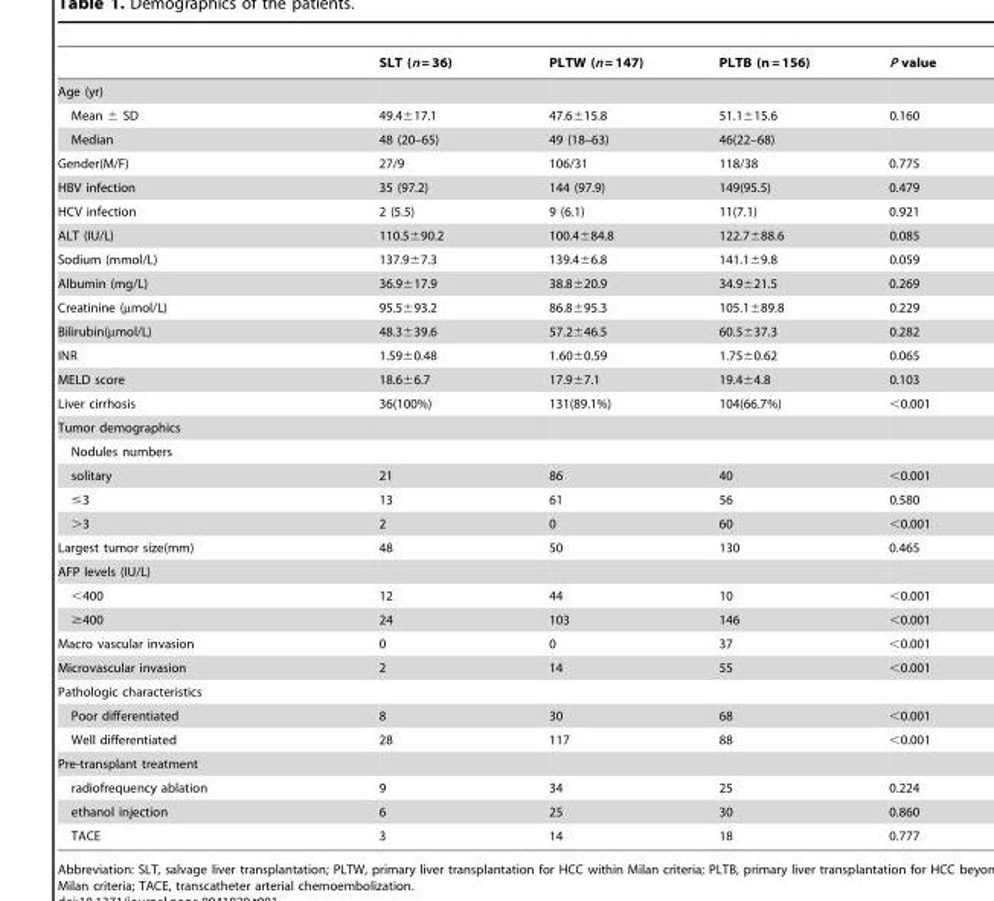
<table><thead><tr><td></td><td>SLT (n = 36)</td><td>PLTW (n = 147)</td><td>PLTB (n = 156)</td><td>P value</td></tr></thead><tbody><tr><td colspan="5">Age (yr)</td></tr><tr><td>Mean ± SD</td><td>49.4±17.1</td><td>47.6±15.8</td><td>51.1±15.6</td><td>0.160</td></tr><tr><td>Median</td><td>48 (20–65)</td><td>49 (18–63)</td><td>46(22–68)</td><td></td></tr><tr><td>Gender(M/F)</td><td>27/9</td><td>106/31</td><td>118/38</td><td>0.775</td></tr><tr><td>HBV infection</td><td>35 (97.2)</td><td>144 (97.9)</td><td>149(95.5)</td><td>0.479</td></tr><tr><td>HCV infection</td><td>2 (5.5)</td><td>9 (6.1)</td><td>11(7.1)</td><td>0.921</td></tr><tr><td>ALT (IU/L)</td><td>110.5±90.2</td><td>100.4±84.8</td><td>122.7±88.6</td><td>0.085</td></tr><tr><td>Sodium (mmol/L)</td><td>137.9±7.3</td><td>139.4±6.8</td><td>141.1±9.8</td><td>0.059</td></tr><tr><td>Albumin (mg/L)</td><td>36.9±17.9</td><td>38.8±20.9</td><td>34.9±21.5</td><td>0.269</td></tr><tr><td>Creatinine (µmol/L)</td><td>95.5±93.2</td><td>86.8±95.3</td><td>105.1±89.8</td><td>0.229</td></tr><tr><td>Bilirubin(µmol/L)</td><td>48.3±39.6</td><td>57.2±46.5</td><td>60.5±37.3</td><td>0.282</td></tr><tr><td>INR</td><td>1.59±0.48</td><td>1.60±0.59</td><td>1.75±0.62</td><td>0.065</td></tr><tr><td>MELD score</td><td>18.6±6.7</td><td>17.9±7.1</td><td>19.4±4.8</td><td>0.103</td></tr><tr><td>Liver cirrhosis</td><td>36(100%)</td><td>131(89.1%)</td><td>104(66.7%)</td><td>&lt;0.001</td></tr><tr><td colspan="5">Tumor demographics</td></tr><tr><td colspan="5">Nodules numbers</td></tr><tr><td>solitary</td><td>21</td><td>86</td><td>40</td><td>&lt;0.001</td></tr><tr><td>≤3</td><td>13</td><td>61</td><td>56</td><td>0.580</td></tr><tr><td>&gt;3</td><td>2</td><td>0</td><td>60</td><td>&lt;0.001</td></tr><tr><td>Largest tumor size(mm)</td><td>48</td><td>50</td><td>130</td><td>0.465</td></tr><tr><td colspan="5">AFP levels (IU/L)</td></tr><tr><td>&lt;400</td><td>12</td><td>44</td><td>10</td><td>&lt;0.001</td></tr><tr><td>≥400</td><td>24</td><td>103</td><td>146</td><td>&lt;0.001</td></tr><tr><td>Macro vascular invasion</td><td>0</td><td>0</td><td>37</td><td>&lt;0.001</td></tr><tr><td>Microvascular invasion</td><td>2</td><td>14</td><td>55</td><td>&lt;0.001</td></tr><tr><td colspan="5">Pathologic characteristics</td></tr><tr><td>Poor differentiated</td><td>8</td><td>30</td><td>68</td><td>&lt;0.001</td></tr><tr><td>Well differentiated</td><td>28</td><td>117</td><td>88</td><td>&lt;0.001</td></tr><tr><td colspan="5">Pre-transplant treatment</td></tr><tr><td>radiofrequency ablation</td><td>9</td><td>34</td><td>25</td><td>0.224</td></tr><tr><td>ethanol injection</td><td>6</td><td>25</td><td>30</td><td>0.860</td></tr><tr><td>TACE</td><td>3</td><td>14</td><td>18</td><td>0.777</td></tr></tbody></table>